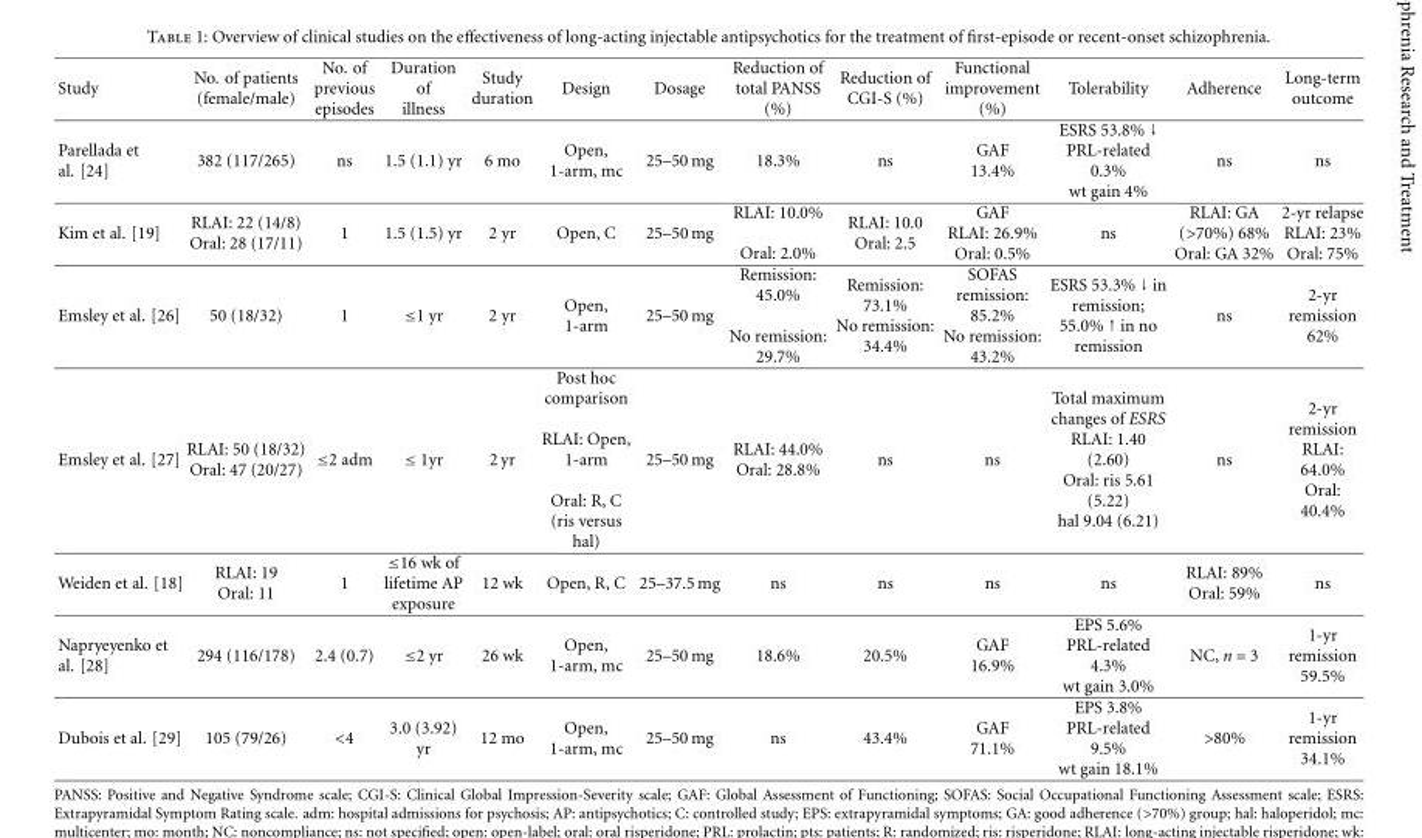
<table><thead><tr><td>Study</td><td>No. of patients (female/male)</td><td>No. of previous episodes</td><td>Duration of illness</td><td>Study duration</td><td>Design</td><td>Dosage</td><td>Reduction of total PANSS (%)</td><td>Reduction of CGI-S (%)</td><td>Functional improvement (%)</td><td>Tolerability</td><td>Adherence</td><td>Long-term outcome</td></tr></thead><tbody><tr><td>Parellada et al. [24]</td><td>382 (117/265)</td><td>ns</td><td>1.5 (1.1) yr</td><td>6 mo</td><td>Open, 1-arm, mc</td><td>25–50 mg</td><td>18.3%</td><td>ns</td><td>GAF 13.4%</td><td>ESRS 53.8% ↓ PRL-related 0.3% wt gain 4%</td><td>ns</td><td>ns</td></tr><tr><td>Kim et al. [19]</td><td>RLAI: 22 (14/8) Oral: 28 (17/11)</td><td>1</td><td>1.5 (1.5) yr</td><td>2 yr</td><td>Open, C</td><td>25–50 mg</td><td>RLAI: 10.0% Oral: 2.0%</td><td>RLAI: 10.0 Oral: 2.5</td><td>GAF RLAI: 26.9% Oral: 0.5%</td><td>ns</td><td>RLAI: GA (&gt;70%) 68% Oral: GA 32%</td><td>2-yr relapse RLAI: 23% Oral: 75%</td></tr><tr><td>Emsley et al. [26]</td><td>50 (18/32)</td><td>1</td><td>≤1 yr</td><td>2 yr</td><td>Open, 1-arm</td><td>25–50 mg</td><td>Remission: 45.0% No remission: 29.7%</td><td>Remission: 73.1% No remission: 34.4%</td><td>SOFAS remission: 85.2% No remission: 43.2%</td><td>ESRS 53.3% ↓ in remission; 55.0% ↑ in no remission</td><td>ns</td><td>2-yr remission 62%</td></tr><tr><td>Emsley et al. [27]</td><td>RLAI: 50 (18/32) Oral: 47 (20/27)</td><td>≤2 adm</td><td>≤ 1yr</td><td>2 yr</td><td>Post hoc comparison RLAI: Open, 1-arm Oral: R, C (ris versus hal)</td><td>25–50 mg</td><td>RLAI: 44.0% Oral: 28.8%</td><td>ns</td><td>ns</td><td>Total maximum changes of ESRS RLAI: 1.40 (2.60) Oral: ris 5.61 (5.22) hal 9.04 (6.21)</td><td>ns</td><td>2-yr remission RLAI: 64.0% Oral: 40.4%</td></tr><tr><td>Weiden et al. [18]</td><td>RLAI: 19 Oral: 11</td><td>1</td><td>≤16 wk of lifetime AP exposure</td><td>12 wk</td><td>Open, R, C</td><td>25–37.5 mg</td><td>ns</td><td>ns</td><td>ns</td><td>ns</td><td>RLAI: 89% Oral: 59%</td><td>ns</td></tr><tr><td>Napryeyenko et al. [28]</td><td>294 (116/178)</td><td>2.4 (0.7)</td><td>≤2 yr</td><td>26 wk</td><td>Open, 1-arm, mc</td><td>25–50 mg</td><td>18.6%</td><td>20.5%</td><td>GAF 16.9%</td><td>EPS 5.6% PRL-related 4.3% wt gain 3.0%</td><td>NC, n = 3</td><td>1-yr remission 59.5%</td></tr><tr><td>Dubois et al. [29]</td><td>105 (79/26)</td><td>&lt;4</td><td>3.0 (3.92) yr</td><td>12 mo</td><td>Open, 1-arm, mc</td><td>25–50 mg</td><td>ns</td><td>43.4%</td><td>GAF 71.1%</td><td>EPS 3.8% PRL-related 9.5% wt gain 18.1%</td><td>&gt;80%</td><td>1-yr remission 34.1%</td></tr></tbody></table>